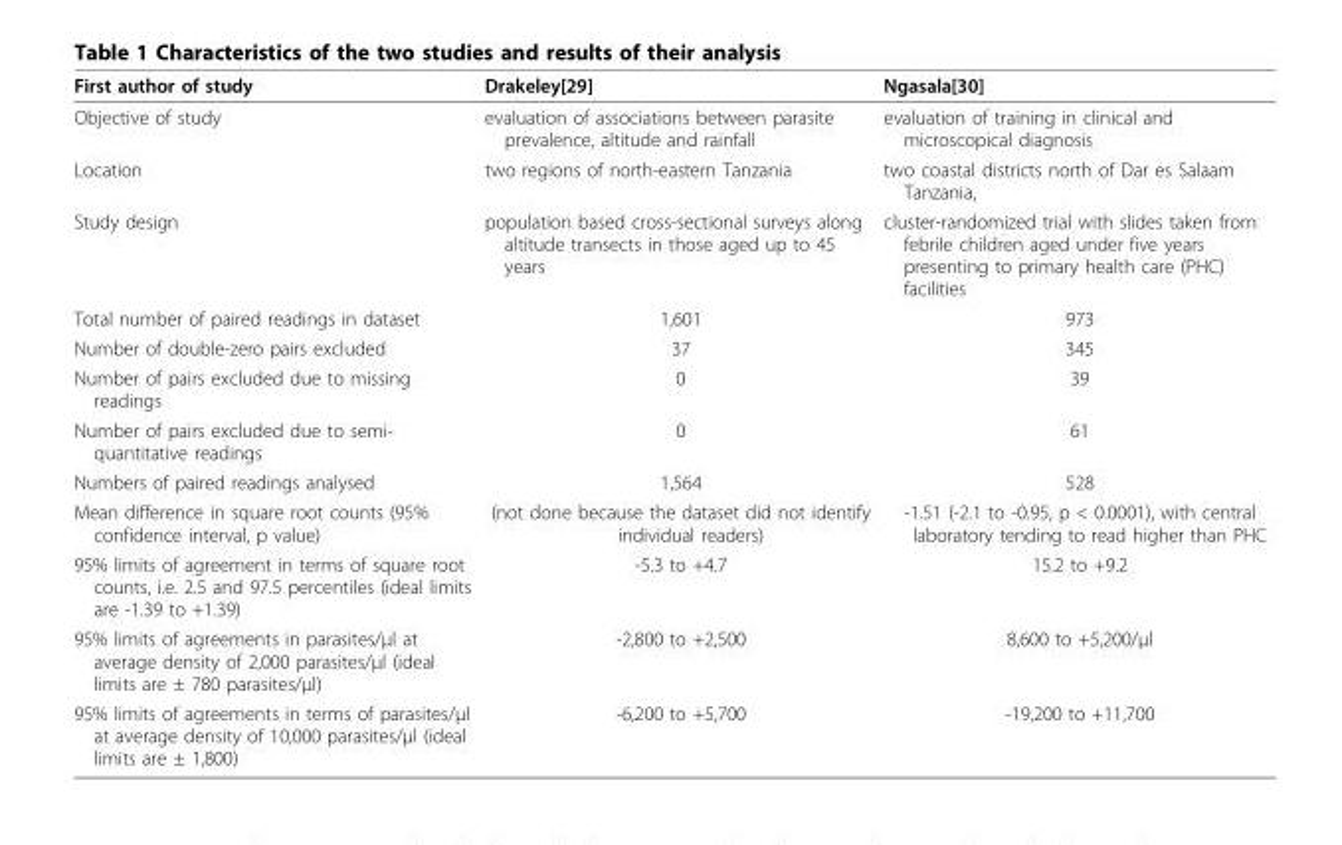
<table><tbody><tr><td>First author of study</td><td>Drakeley[29]</td><td>Ngasala[30]</td></tr><tr><td>Objective of study</td><td>evaluation of associations between parasite prevalence, altitude and rainfall</td><td>evaluation of training in clinical and microscopical diagnosis</td></tr><tr><td>Location</td><td>two regions of north-eastern Tanzania</td><td>two coastal districts north of Dar es Salaam Tanzania,</td></tr><tr><td>Study design</td><td>population based cross-sectional surveys along altitude transects in those aged up to 45 years</td><td>cluster-randomized trial with slides taken from febrile children aged under five years presenting to primary health care (PHC) facilities</td></tr><tr><td>Total number of paired readings in dataset</td><td>1,601</td><td>973</td></tr><tr><td>Number of double-zero pairs excluded</td><td>37</td><td>345</td></tr><tr><td>Number of pairs excluded due to missing readings</td><td>0</td><td>39</td></tr><tr><td>Number of pairs excluded due to semi- quantitative readings</td><td>0</td><td>61</td></tr><tr><td>Numbers of paired readings analysed</td><td>1,564</td><td>528</td></tr><tr><td>Mean difference in square root counts (95% confidence interval, p value)</td><td>(not done because the dataset did not identify individual readers)</td><td>-1.51 (-2.1 to -0.95, p &lt; 0.0001), with central laboratory tending to read higher than PHC</td></tr><tr><td>95% limits of agreement in terms of square root counts, i.e. 2.5 and 97.5 percentiles (ideal limits are -1.39 to +1.39)</td><td>-5.3 to +4.7</td><td>15.2 to +9.2</td></tr><tr><td>95% limits of agreements in parasites/μl at average density of 2,000 parasites/μl (ideal limits are ± 780 parasites/μl)</td><td>-2,800 to +2,500</td><td>8,600 to +5,200/μl</td></tr><tr><td>95% limits of agreements in terms of parasites/μl at average density of 10,000 parasites/μl (ideal limits are ± 1,800)</td><td>-6,200 to +5,700</td><td>-19,200 to +11,700</td></tr></tbody></table>